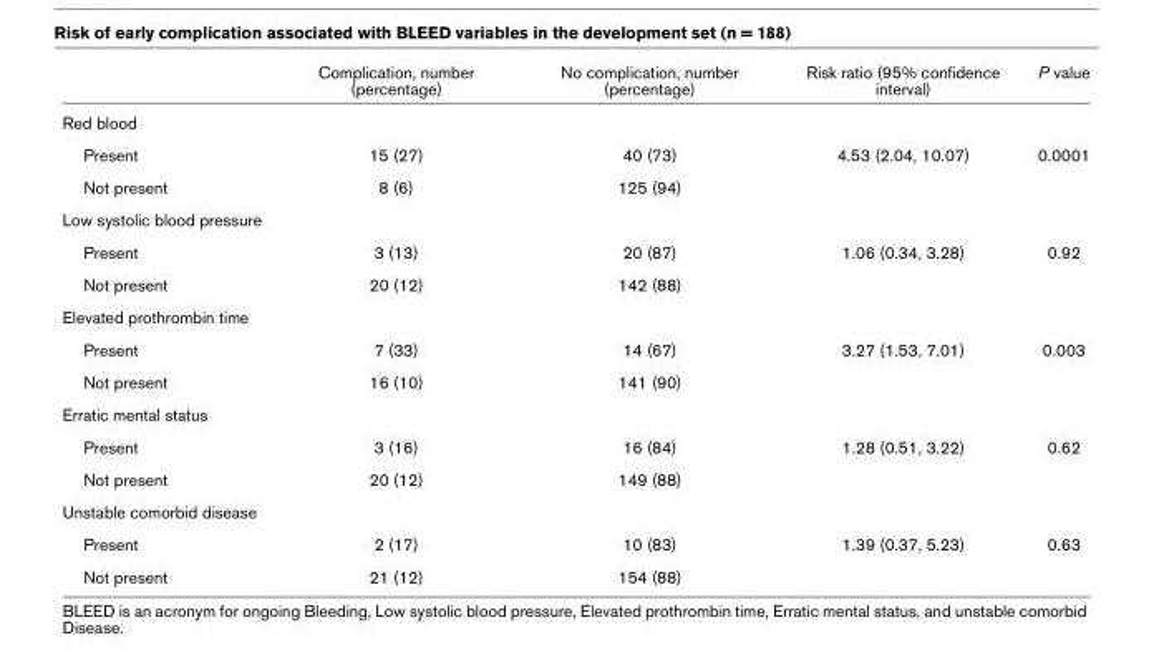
<table><thead><tr><td></td><td>Complication, number (percentage)</td><td>No complication, number (percentage)</td><td>Risk ratio (95% confidence interval)</td><td>P value</td></tr></thead><tbody><tr><td colspan="5">Red blood</td></tr><tr><td>Present</td><td>15 (27)</td><td>40 (73)</td><td>4.53 (2.04, 10.07)</td><td>0.0001</td></tr><tr><td>Not present</td><td>8 (6)</td><td>125 (94)</td><td></td><td></td></tr><tr><td colspan="5">Low systolic blood pressure</td></tr><tr><td>Present</td><td>3 (13)</td><td>20 (87)</td><td>1.06 (0.34, 3.28)</td><td>0.92</td></tr><tr><td>Not present</td><td>20 (12)</td><td>142 (88)</td><td></td><td></td></tr><tr><td colspan="5">Elevated prothrombin time</td></tr><tr><td>Present</td><td>7 (33)</td><td>14 (67)</td><td>3.27 (1.53, 7.01)</td><td>0.003</td></tr><tr><td>Not present</td><td>16 (10)</td><td>141 (90)</td><td></td><td></td></tr><tr><td colspan="5">Erratic mental status</td></tr><tr><td>Present</td><td>3 (16)</td><td>16 (84)</td><td>1.28 (0.51, 3.22)</td><td>0.62</td></tr><tr><td>Not present</td><td>20 (12)</td><td>149 (88)</td><td></td><td></td></tr><tr><td colspan="5">Unstable comorbid disease</td></tr><tr><td>Present</td><td>2 (17)</td><td>10 (83)</td><td>1.39 (0.37, 5.23)</td><td>0.63</td></tr><tr><td>Not present</td><td>21 (12)</td><td>154 (88)</td><td></td><td></td></tr></tbody></table>